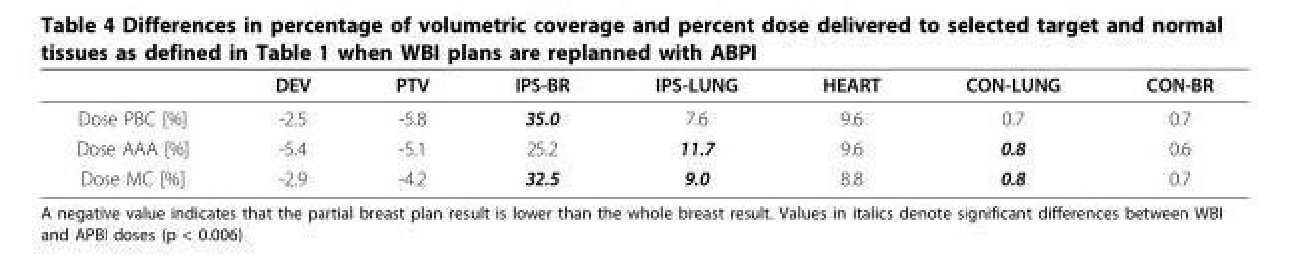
<table><thead><tr><td></td><td>DEV</td><td>PTV</td><td>IPS-BR</td><td>IPS-LUNG</td><td>HEART</td><td>CON-LUNG</td><td>CON-BR</td></tr></thead><tbody><tr><td>Dose PBC [%]</td><td>-2.5</td><td>-5.8</td><td>35.0</td><td>7.6</td><td>9.6</td><td>0.7</td><td>0.7</td></tr><tr><td>Dose AAA [%]</td><td>-5.4</td><td>-5.1</td><td>25.2</td><td>11.7</td><td>9.6</td><td>0.8</td><td>0.6</td></tr><tr><td>Dose MC [%]</td><td>-2.9</td><td>-4.2</td><td>32.5</td><td>9.0</td><td>8.8</td><td>0.8</td><td>0.7</td></tr></tbody></table>